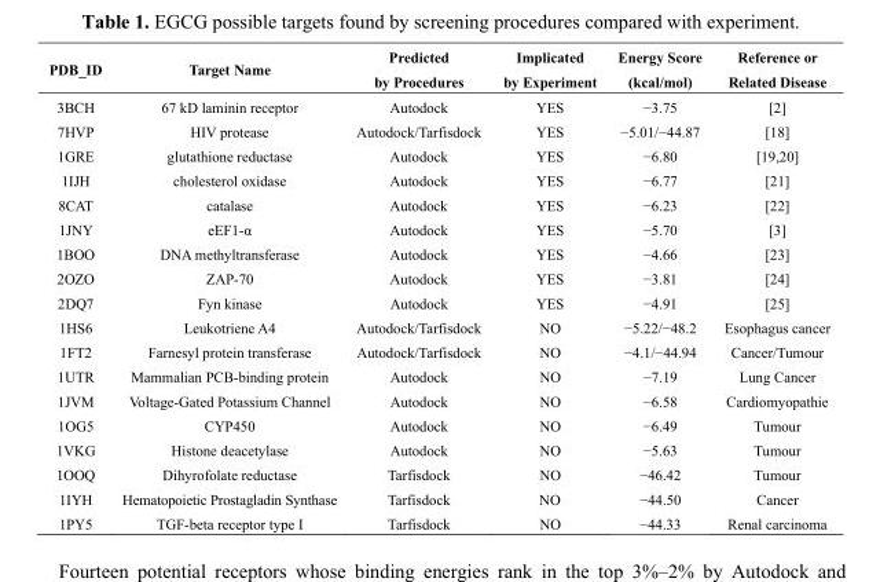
<table><thead><tr><td>PDB_ID</td><td>Target Name</td><td>Predicted by Procedures</td><td>Implicated by Experiment</td><td>Energy Score (kcal/mol)</td><td>Reference or Related Disease</td></tr></thead><tbody><tr><td>3BCH</td><td>67 kD laminin receptor</td><td>Autodock</td><td>YES</td><td>−3.75</td><td>[2]</td></tr><tr><td>7HVP</td><td>HIV protease</td><td>Autodock/Tarfisdock</td><td>YES</td><td>−5.01/−44.87</td><td>[18]</td></tr><tr><td>1GRE</td><td>glutathione reductase</td><td>Autodock</td><td>YES</td><td>−6.80</td><td>[19,20]</td></tr><tr><td>1IJH</td><td>cholesterol oxidase</td><td>Autodock</td><td>YES</td><td>−6.77</td><td>[21]</td></tr><tr><td>8CAT</td><td>catalase</td><td>Autodock</td><td>YES</td><td>−6.23</td><td>[22]</td></tr><tr><td>1JNY</td><td>eEF1-α</td><td>Autodock</td><td>YES</td><td>−5.70</td><td>[3]</td></tr><tr><td>1BOO</td><td>DNA methyltransferase</td><td>Autodock</td><td>YES</td><td>−4.66</td><td>[23]</td></tr><tr><td>2OZO</td><td>ZAP-70</td><td>Autodock</td><td>YES</td><td>−3.81</td><td>[24]</td></tr><tr><td>2DQ7</td><td>Fyn kinase</td><td>Autodock</td><td>YES</td><td>−4.91</td><td>[25]</td></tr><tr><td>1HS6</td><td>Leukotriene A4</td><td>Autodock/Tarfisdock</td><td>NO</td><td>−5.22/−48.2</td><td>Esophagus cancer</td></tr><tr><td>1FT2</td><td>Farnesyl protein transferase</td><td>Autodock/Tarfisdock</td><td>NO</td><td>−4.1/−44.94</td><td>Cancer/Tumour</td></tr><tr><td>1UTR</td><td>Mammalian PCB-binding protein</td><td>Autodock</td><td>NO</td><td>−7.19</td><td>Lung Cancer</td></tr><tr><td>1JVM</td><td>Voltage-Gated Potassium Channel</td><td>Autodock</td><td>NO</td><td>−6.58</td><td>Cardiomyopathie</td></tr><tr><td>1OG5</td><td>CYP450</td><td>Autodock</td><td>NO</td><td>−6.49</td><td>Tumour</td></tr><tr><td>1VKG</td><td>Histone deacetylase</td><td>Autodock</td><td>NO</td><td>−5.63</td><td>Tumour</td></tr><tr><td>1OOQ</td><td>Dihyrofolate reductase</td><td>Tarfisdock</td><td>NO</td><td>−46.42</td><td>Tumour</td></tr><tr><td>1IYH</td><td>Hematopoietic Prostagladin Synthase</td><td>Tarfisdock</td><td>NO</td><td>−44.50</td><td>Cancer</td></tr><tr><td>1PY5</td><td>TGF-beta receptor type I</td><td>Tarfisdock</td><td>NO</td><td>−44.33</td><td>Renal carcinoma</td></tr></tbody></table>